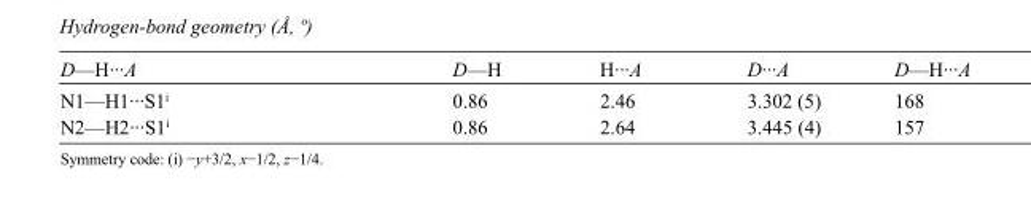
<table><tbody><tr><td>D—H···A</td><td>D—H</td><td>H···A</td><td>D···A</td><td>D—H···A</td></tr><tr><td>N1—H1···S1<sup>i</sup></td><td>0.86</td><td>2.46</td><td>3.302 (5)</td><td>168</td></tr><tr><td>N2—H2···S1<sup>i</sup></td><td>0.86</td><td>2.64</td><td>3.445 (4)</td><td>157</td></tr></tbody></table>